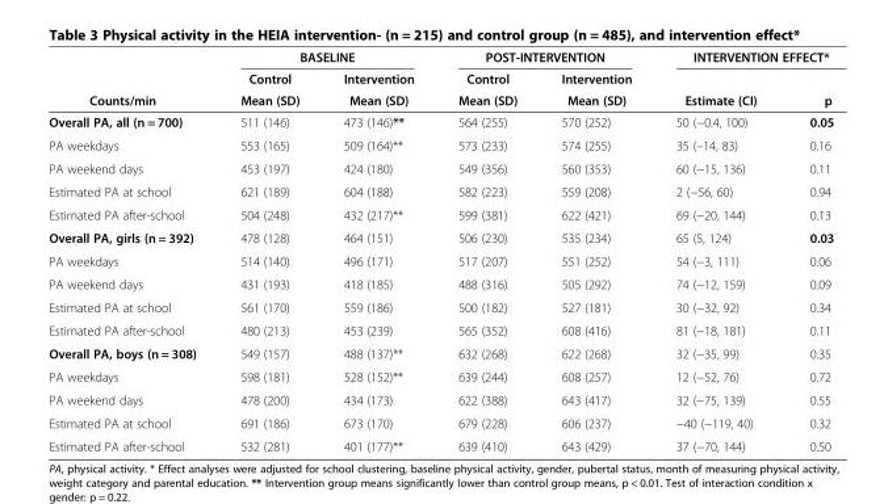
<table><thead><tr><td rowspan="3">Counts/min</td><td colspan="2">BASELINE</td><td colspan="2">POST-INTERVENTION</td><td colspan="2">INTERVENTION EFFECT*</td></tr><tr><td rowspan="2">Control Mean (SD)</td><td rowspan="2">Intervention Mean (SD)</td><td rowspan="2">Control Mean (SD)</td><td rowspan="2">Intervention Mean (SD)</td><td rowspan="2">Estimate (CI)</td><td rowspan="2">p</td></tr><tr></tr></thead><tbody><tr><td>Overall PA, all (n = 700)</td><td>511 (146)</td><td>473 (146)**</td><td>564 (255)</td><td>570 (252)</td><td>50 (−0.4, 100)</td><td>0.05</td></tr><tr><td>PA weekdays</td><td>553 (165)</td><td>509 (164)**</td><td>573 (233)</td><td>574 (255)</td><td>35 (–14, 83)</td><td>0.16</td></tr><tr><td>PA weekend days</td><td>453 (197)</td><td>424 (180)</td><td>549 (356)</td><td>560 (353)</td><td>60 (−15, 136)</td><td>0.11</td></tr><tr><td>Estimated PA at school</td><td>621 (189)</td><td>604 (188)</td><td>582 (223)</td><td>559 (208)</td><td>2 (−56, 60)</td><td>0.94</td></tr><tr><td>Estimated PA after-school</td><td>504 (248)</td><td>432 (217)**</td><td>599 (381)</td><td>622 (421)</td><td>69 (−20, 144)</td><td>0.13</td></tr><tr><td>Overall PA, girls (n = 392)</td><td>478 (128)</td><td>464 (151)</td><td>506 (230)</td><td>535 (234)</td><td>65 (5, 124)</td><td>0.03</td></tr><tr><td>PA weekdays</td><td>514 (140)</td><td>496 (171)</td><td>517 (207)</td><td>551 (252)</td><td>54 (−3, 111)</td><td>0.06</td></tr><tr><td>PA weekend days</td><td>431 (193)</td><td>418 (185)</td><td>488 (316)</td><td>505 (292)</td><td>74 (−12, 159)</td><td>0.09</td></tr><tr><td>Estimated PA at school</td><td>561 (170)</td><td>559 (186)</td><td>500 (182)</td><td>527 (181)</td><td>30 (−32, 92)</td><td>0.34</td></tr><tr><td>Estimated PA after-school</td><td>480 (213)</td><td>453 (239)</td><td>565 (352)</td><td>608 (416)</td><td>81 (−18, 181)</td><td>0.11</td></tr><tr><td>Overall PA, boys (n = 308)</td><td>549 (157)</td><td>488 (137)**</td><td>632 (268)</td><td>622 (268)</td><td>32 (−35, 99)</td><td>0.35</td></tr><tr><td>PA weekdays</td><td>598 (181)</td><td>528 (152)**</td><td>639 (244)</td><td>608 (257)</td><td>12 (−52, 76)</td><td>0.72</td></tr><tr><td>PA weekend days</td><td>478 (200)</td><td>434 (173)</td><td>622 (388)</td><td>643 (417)</td><td>32 (−75, 139)</td><td>0.55</td></tr><tr><td>Estimated PA at school</td><td>691 (186)</td><td>673 (170)</td><td>679 (228)</td><td>606 (237)</td><td>−40 (−119, 40)</td><td>0.32</td></tr><tr><td>Estimated PA after-school</td><td>532 (281)</td><td>401 (177)**</td><td>639 (410)</td><td>643 (429)</td><td>37 (−70, 144)</td><td>0.50</td></tr></tbody></table>